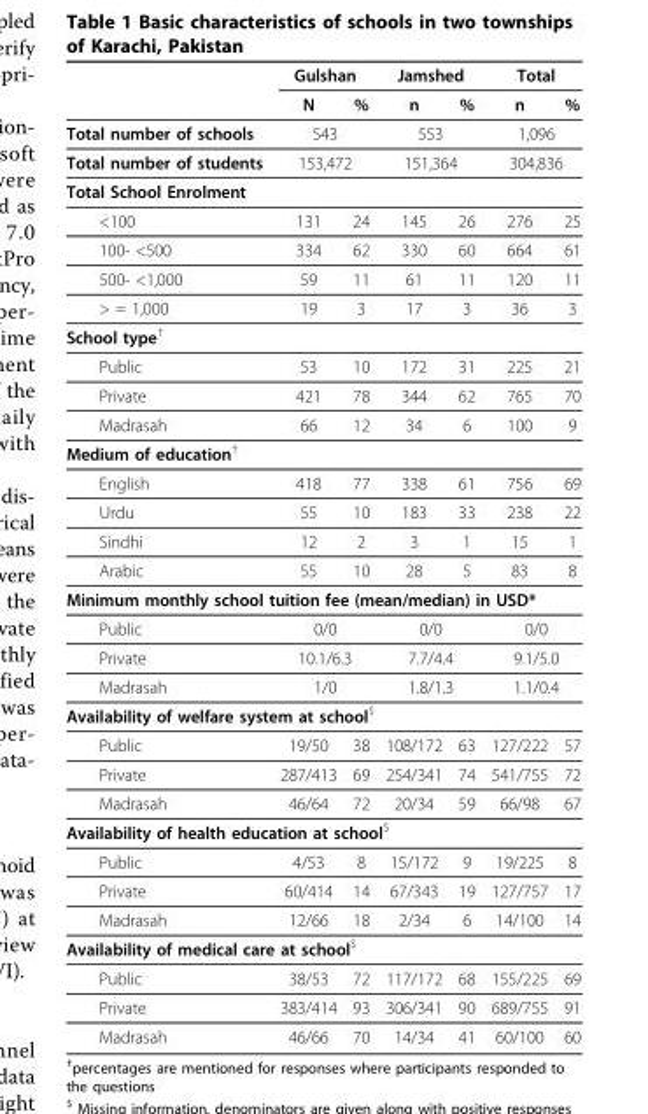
<table><thead><tr><td rowspan="2"></td><td colspan="2">Gulshan</td><td colspan="2">Jamshed</td><td colspan="2">Total</td></tr><tr><td>N</td><td>%</td><td>n</td><td>%</td><td>n</td><td>%</td></tr></thead><tbody><tr><td>Total number of schools</td><td colspan="2">543</td><td colspan="2">553</td><td colspan="2">1,096</td></tr><tr><td>Total number of students</td><td colspan="2">153,472</td><td colspan="2">151,364</td><td colspan="2">304,836</td></tr><tr><td colspan="7">Total School Enrolment</td></tr><tr><td>&lt;100</td><td>131</td><td>24</td><td>145</td><td>26</td><td>276</td><td>25</td></tr><tr><td>100- &lt;500</td><td>334</td><td>62</td><td>330</td><td>60</td><td>664</td><td>61</td></tr><tr><td>500- &lt;1,000</td><td>59</td><td>11</td><td>61</td><td>11</td><td>120</td><td>11</td></tr><tr><td>&gt; = 1,000</td><td>19</td><td>3</td><td>17</td><td>3</td><td>36</td><td>3</td></tr><tr><td colspan="7">School type<sup>†</sup></td></tr><tr><td>Public</td><td>53</td><td>10</td><td>172</td><td>31</td><td>225</td><td>21</td></tr><tr><td>Private</td><td>421</td><td>78</td><td>344</td><td>62</td><td>765</td><td>70</td></tr><tr><td>Madrasah</td><td>66</td><td>12</td><td>34</td><td>6</td><td>100</td><td>9</td></tr><tr><td colspan="7">Medium of education<sup>†</sup></td></tr><tr><td>English</td><td>418</td><td>77</td><td>338</td><td>61</td><td>756</td><td>69</td></tr><tr><td>Urdu</td><td>55</td><td>10</td><td>183</td><td>33</td><td>238</td><td>22</td></tr><tr><td>Sindhi</td><td>12</td><td>2</td><td>3</td><td>1</td><td>15</td><td>1</td></tr><tr><td>Arabic</td><td>55</td><td>10</td><td>28</td><td>5</td><td>83</td><td>8</td></tr><tr><td colspan="7">Minimum monthly school tuition fee (mean/median) in USD*</td></tr><tr><td>Public</td><td colspan="2">0/0</td><td colspan="2">0/0</td><td colspan="2">0/0</td></tr><tr><td>Private</td><td colspan="2">10.1/6.3</td><td colspan="2">7.7/4.4</td><td colspan="2">9.1/5.0</td></tr><tr><td>Madrasah</td><td colspan="2">1/0</td><td colspan="2">1.8/1.3</td><td colspan="2">1.1/0.4</td></tr><tr><td colspan="7">Availability of welfare system at school<sup>$</sup></td></tr><tr><td>Public</td><td>19/50</td><td>38</td><td>108/172</td><td>63</td><td>127/222</td><td>57</td></tr><tr><td>Private</td><td>287/413</td><td>69</td><td>254/341</td><td>74</td><td>541/755</td><td>72</td></tr><tr><td>Madrasah</td><td>46/64</td><td>72</td><td>20/34</td><td>59</td><td>66/98</td><td>67</td></tr><tr><td colspan="7">Availability of health education at school<sup>$</sup></td></tr><tr><td>Public</td><td>4/53</td><td>8</td><td>15/172</td><td>9</td><td>19/225</td><td>8</td></tr><tr><td>Private</td><td>60/414</td><td>14</td><td>67/343</td><td>19</td><td>127/757</td><td>17</td></tr><tr><td>Madrasah</td><td>12/66</td><td>18</td><td>2/34</td><td>6</td><td>14/100</td><td>14</td></tr><tr><td colspan="7">Availability of medical care at school<sup>$</sup></td></tr><tr><td>Public</td><td>38/53</td><td>72</td><td>117/172</td><td>68</td><td>155/225</td><td>69</td></tr><tr><td>Private</td><td>383/414</td><td>93</td><td>306/341</td><td>90</td><td>689/755</td><td>91</td></tr><tr><td>Madrasah</td><td>46/66</td><td>70</td><td>14/34</td><td>41</td><td>60/100</td><td>60</td></tr></tbody></table>